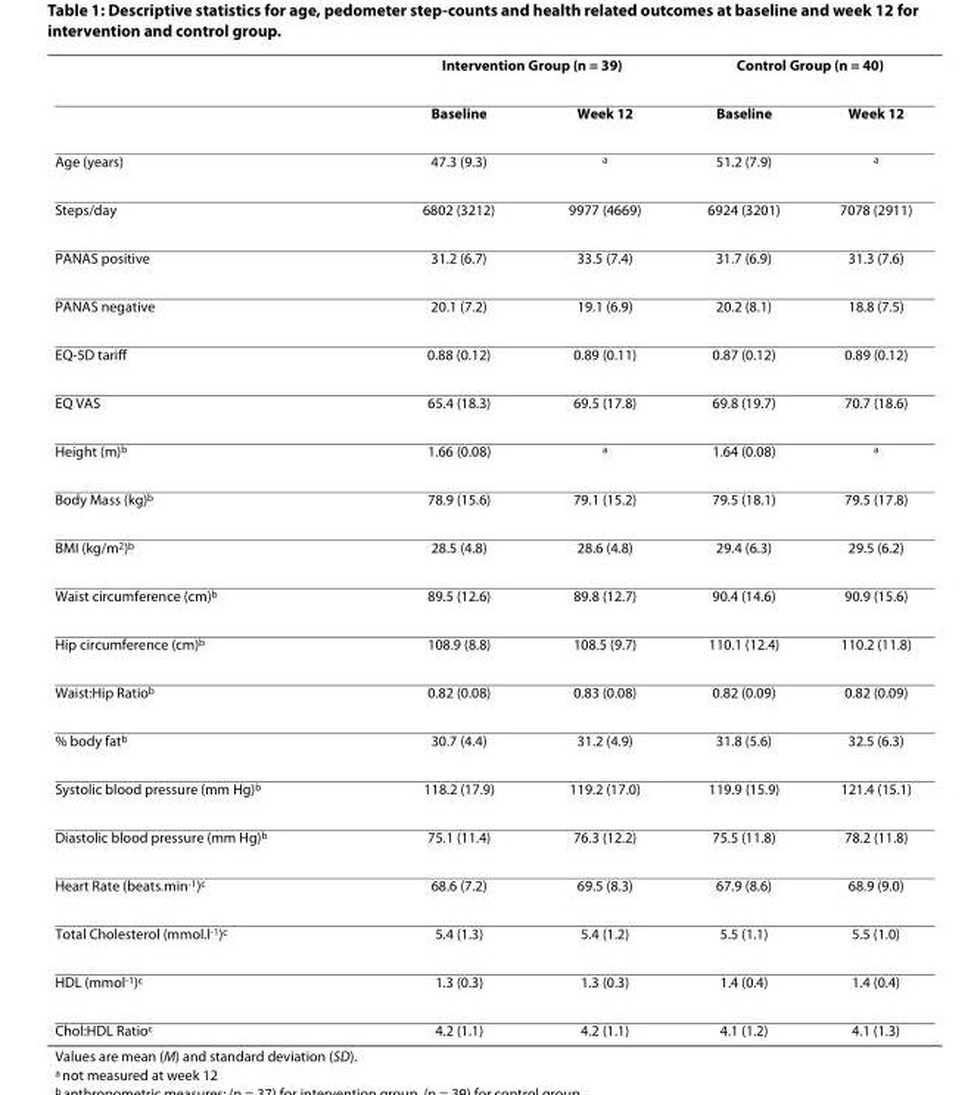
<table><thead><tr><td rowspan="2"></td><td colspan="2">Intervention Group (n = 39)</td><td colspan="2">Control Group (n = 40)</td></tr><tr><td>Baseline</td><td>Week 12</td><td>Baseline</td><td>Week 12</td></tr></thead><tbody><tr><td>Age (years)</td><td>47.3 (9.3)</td><td><sup>a</sup></td><td>51.2 (7.9)</td><td><sup>a</sup></td></tr><tr><td>Steps/day</td><td>6802 (3212)</td><td>9977 (4669)</td><td>6924 (3201)</td><td>7078 (2911)</td></tr><tr><td>PANAS positive</td><td>31.2 (6.7)</td><td>33.5 (7.4)</td><td>31.7 (6.9)</td><td>31.3 (7.6)</td></tr><tr><td>PANAS negative</td><td>20.1 (7.2)</td><td>19.1 (6.9)</td><td>20.2 (8.1)</td><td>18.8 (7.5)</td></tr><tr><td>EQ-5D tariff</td><td>0.88 (0.12)</td><td>0.89 (0.11)</td><td>0.87 (0.12)</td><td>0.89 (0.12)</td></tr><tr><td>EQ VAS</td><td>65.4 (18.3)</td><td>69.5 (17.8)</td><td>69.8 (19.7)</td><td>70.7 (18.6)</td></tr><tr><td>Height (m)<sup>b</sup></td><td>1.66 (0.08)</td><td><sup>a</sup></td><td>1.64 (0.08)</td><td><sup>a</sup></td></tr><tr><td>Body Mass (kg)<sup>b</sup></td><td>78.9 (15.6)</td><td>79.1 (15.2)</td><td>79.5 (18.1)</td><td>79.5 (17.8)</td></tr><tr><td>BMI (kg/m<sup>2</sup>)<sup>b</sup></td><td>28.5 (4.8)</td><td>28.6 (4.8)</td><td>29.4 (6.3)</td><td>29.5 (6.2)</td></tr><tr><td>Waist circumference (cm)<sup>b</sup></td><td>89.5 (12.6)</td><td>89.8 (12.7)</td><td>90.4 (14.6)</td><td>90.9 (15.6)</td></tr><tr><td>Hip circumference (cm)<sup>b</sup></td><td>108.9 (8.8)</td><td>108.5 (9.7)</td><td>110.1 (12.4)</td><td>110.2 (11.8)</td></tr><tr><td>Waist:Hip Ratio<sup>b</sup></td><td>0.82 (0.08)</td><td>0.83 (0.08)</td><td>0.82 (0.09)</td><td>0.82 (0.09)</td></tr><tr><td>% body fat<sup>b</sup></td><td>30.7 (4.4)</td><td>31.2 (4.9)</td><td>31.8 (5.6)</td><td>32.5 (6.3)</td></tr><tr><td>Systolic blood pressure (mm Hg)<sup>b</sup></td><td>118.2 (17.9)</td><td>119.2 (17.0)</td><td>119.9 (15.9)</td><td>121.4 (15.1)</td></tr><tr><td>Diastolic blood pressure (mm Hg)<sup>b</sup></td><td>75.1 (11.4)</td><td>76.3 (12.2)</td><td>75.5 (11.8)</td><td>78.2 (11.8)</td></tr><tr><td>Heart Rate (beats.min<sup>-1</sup>)<sup>c</sup></td><td>68.6 (7.2)</td><td>69.5 (8.3)</td><td>67.9 (8.6)</td><td>68.9 (9.0)</td></tr><tr><td>Total Cholesterol (mmol.l<sup>-1</sup>)<sup>c</sup></td><td>5.4 (1.3)</td><td>5.4 (1.2)</td><td>5.5 (1.1)</td><td>5.5 (1.0)</td></tr><tr><td>HDL (mmol<sup>-1</sup>)<sup>c</sup></td><td>1.3 (0.3)</td><td>1.3 (0.3)</td><td>1.4 (0.4)</td><td>1.4 (0.4)</td></tr><tr><td>Chol:HDL Ratio<sup>c</sup></td><td>4.2 (1.1)</td><td>4.2 (1.1)</td><td>4.1 (1.2)</td><td>4.1 (1.3)</td></tr></tbody></table>